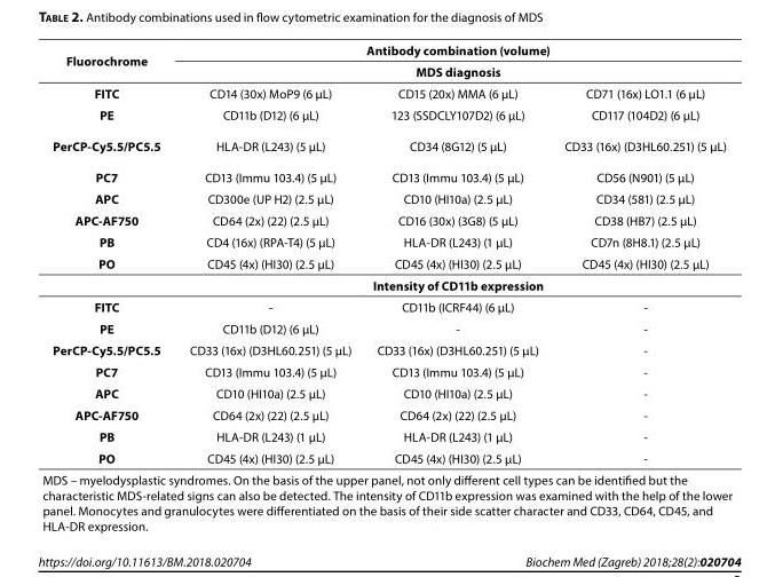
<table><thead><tr><td rowspan="3">Fluorochrome FITC</td><td rowspan="2" colspan="3">Antibody combination (volume) MDS diagnosis</td></tr><tr></tr><tr><td>CD14 (30x) MoP9 (6 μL)</td><td>CD15 (20x) MMA (6 μL)</td><td>CD71 (16x) LO1.1 (6 μL)</td></tr></thead><tbody><tr><td>PE</td><td>CD11b (D12) (6 μL)</td><td>123 (SSDCLY107D2) (6 μL)</td><td>CD117 (104D2) (6 μL)</td></tr><tr><td>PerCP-Cy5.5/PC5.5</td><td>HLA-DR (L243) (5 μL)</td><td>CD34 (8G12) (5 μL)</td><td>CD33 (16x) (D3HL60.251) (5 μL)</td></tr><tr><td>PC7</td><td>CD13 (Immu 103.4) (5 μL)</td><td>CD13 (Immu 103.4) (5 μL)</td><td>CD56 (N901) (5 μL)</td></tr><tr><td>APC</td><td>CD300e (UP H2) (2.5 μL)</td><td>CD10 (HI10a) (2.5 μL)</td><td>CD34 (581) (2.5 μL)</td></tr><tr><td>APC-AF750</td><td>CD64 (2x) (22) (2.5 μL)</td><td>CD16 (30x) (3G8) (5 μL)</td><td>CD38 (HB7) (2.5 μL)</td></tr><tr><td>PB</td><td>CD4 (16x) (RPA-T4) (5 μL)</td><td>HLA-DR (L243) (1 μL)</td><td>CD7n (8H8.1) (2.5 μL)</td></tr><tr><td rowspan="2">PO</td><td>CD45 (4x) (HI30) (2.5 μL)</td><td>CD45 (4x) (HI30) (2.5 μL)</td><td>CD45 (4x) (HI30) (2.5 μL)</td></tr><tr><td colspan="3">Intensity of CD11b expression</td></tr><tr><td>FITC</td><td>-</td><td>CD11b (ICRF44) (6 μL)</td><td>-</td></tr><tr><td>PE</td><td>CD11b (D12) (6 μL)</td><td>-</td><td>-</td></tr><tr><td>PerCP-Cy5.5/PC5.5</td><td>CD33 (16x) (D3HL60.251) (5 μL)</td><td>CD33 (16x) (D3HL60.251) (5 μL)</td><td>-</td></tr><tr><td>PC7</td><td>CD13 (Immu 103.4) (5 μL)</td><td>CD13 (Immu 103.4) (5 μL)</td><td>-</td></tr><tr><td>APC</td><td>CD10 (HI10a) (2.5 μL)</td><td>CD10 (HI10a) (2.5 μL)</td><td>-</td></tr><tr><td>APC-AF750</td><td>CD64 (2x) (22) (2.5 μL)</td><td>CD64 (2x) (22) (2.5 μL)</td><td>-</td></tr><tr><td>PB</td><td>HLA-DR (L243) (1 μL)</td><td>HLA-DR (L243) (1 μL)</td><td>-</td></tr><tr><td>PO</td><td>CD45 (4x) (HI30) (2.5 μL)</td><td>CD45 (4x) (HI30) (2.5 μL)</td><td>-</td></tr><tr><td colspan="4">MDS – myelodysplastic syndromes. On the basis of the upper panel, not only different cell types can be identified but the characteristic MDS-related signs can also be detected. The intensity of CD11b expression was examined with the help of the lower panel. Monocytes and granulocytes were differentiated on the basis of their side scatter character and CD33, CD64, CD45, and HLA-DR expression.</td></tr></tbody></table>